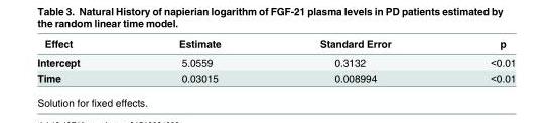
<table><thead><tr><td>Effect</td><td>Estimate</td><td>Standard Error</td><td>p</td></tr></thead><tbody><tr><td>Intercept</td><td>5.0559</td><td>0.3132</td><td>&lt;0.01</td></tr><tr><td>Time</td><td>0.03015</td><td>0.008994</td><td>&lt;0.01</td></tr></tbody></table>